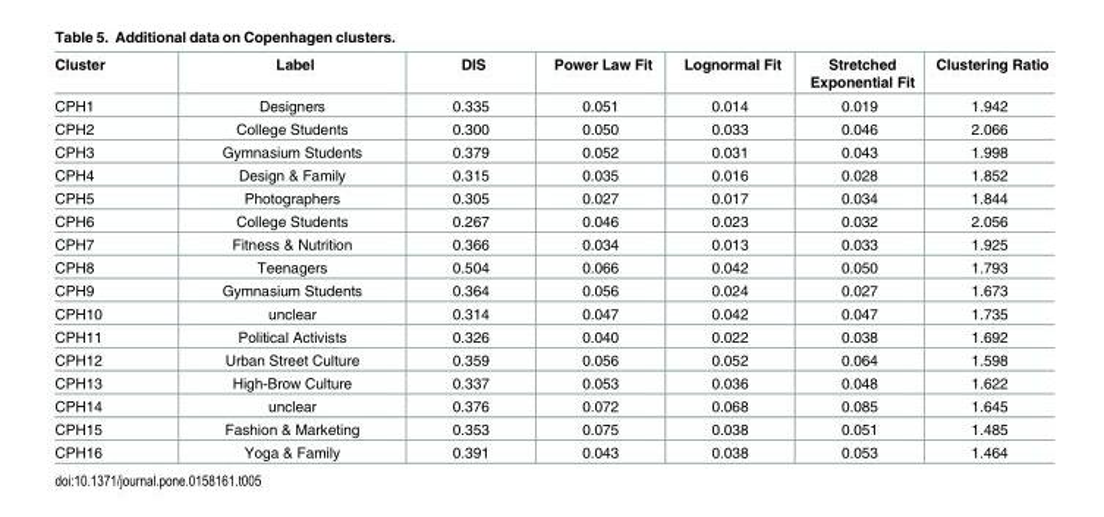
<table><thead><tr><td>Cluster</td><td>Label</td><td>DIS</td><td>Power Law Fit</td><td>Lognormal Fit</td><td>Stretched Exponential Fit</td><td>Clustering Ratio</td></tr></thead><tbody><tr><td>CPH1</td><td>Designers</td><td>0.335</td><td>0.051</td><td>0.014</td><td>0.019</td><td>1.942</td></tr><tr><td>CPH2</td><td>College Students</td><td>0.300</td><td>0.050</td><td>0.033</td><td>0.046</td><td>2.066</td></tr><tr><td>CPH3</td><td>Gymnasium Students</td><td>0.379</td><td>0.052</td><td>0.031</td><td>0.043</td><td>1.998</td></tr><tr><td>CPH4</td><td>Design &amp; Family</td><td>0.315</td><td>0.035</td><td>0.016</td><td>0.028</td><td>1.852</td></tr><tr><td>CPH5</td><td>Photographers</td><td>0.305</td><td>0.027</td><td>0.017</td><td>0.034</td><td>1.844</td></tr><tr><td>CPH6</td><td>College Students</td><td>0.267</td><td>0.046</td><td>0.023</td><td>0.032</td><td>2.056</td></tr><tr><td>CPH7</td><td>Fitness &amp; Nutrition</td><td>0.366</td><td>0.034</td><td>0.013</td><td>0.033</td><td>1.925</td></tr><tr><td>CPH8</td><td>Teenagers</td><td>0.504</td><td>0.066</td><td>0.042</td><td>0.050</td><td>1.793</td></tr><tr><td>CPH9</td><td>Gymnasium Students</td><td>0.364</td><td>0.056</td><td>0.024</td><td>0.027</td><td>1.673</td></tr><tr><td>CPH10</td><td>unclear</td><td>0.314</td><td>0.047</td><td>0.042</td><td>0.047</td><td>1.735</td></tr><tr><td>CPH11</td><td>Political Activists</td><td>0.326</td><td>0.040</td><td>0.022</td><td>0.038</td><td>1.692</td></tr><tr><td>CPH12</td><td>Urban Street Culture</td><td>0.359</td><td>0.056</td><td>0.052</td><td>0.064</td><td>1.598</td></tr><tr><td>CPH13</td><td>High-Brow Culture</td><td>0.337</td><td>0.053</td><td>0.036</td><td>0.048</td><td>1.622</td></tr><tr><td>CPH14</td><td>unclear</td><td>0.376</td><td>0.072</td><td>0.068</td><td>0.085</td><td>1.645</td></tr><tr><td>CPH15</td><td>Fashion &amp; Marketing</td><td>0.353</td><td>0.075</td><td>0.038</td><td>0.051</td><td>1.485</td></tr><tr><td>CPH16</td><td>Yoga &amp; Family</td><td>0.391</td><td>0.043</td><td>0.038</td><td>0.053</td><td>1.464</td></tr></tbody></table>